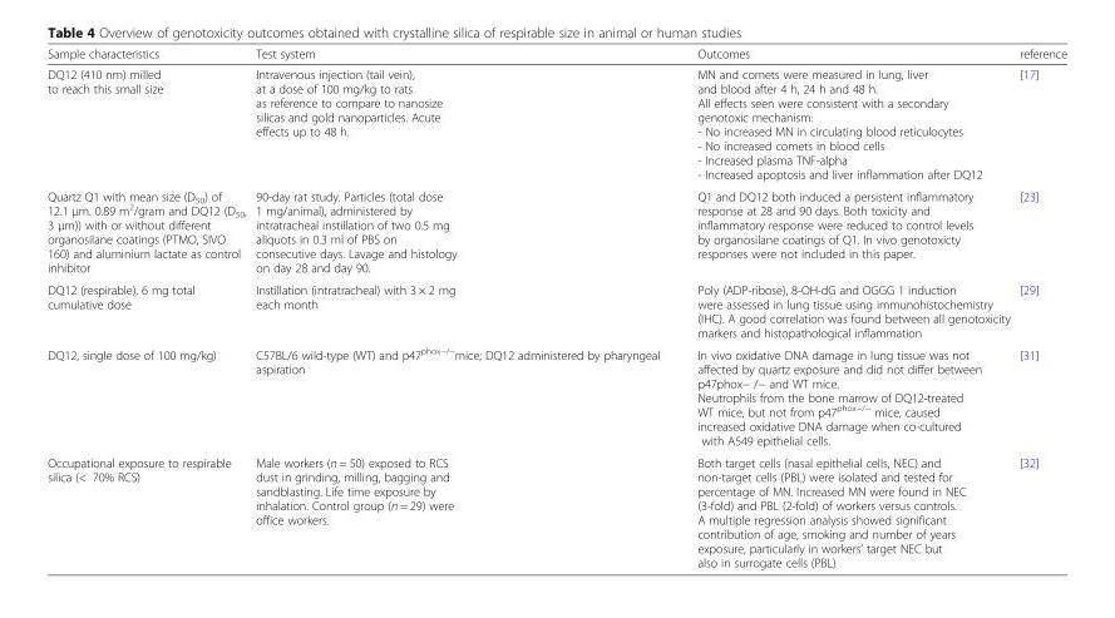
<table><thead><tr><td>Sample characteristics</td><td>Test system</td><td>Outcomes</td><td>reference</td></tr></thead><tbody><tr><td>DQ12 (410 nm) milled to reach this small size</td><td>Intravenous injection (tail vein), at a dose of 100 mg/kg to rats as reference to compare to nanosize silicas and gold nanoparticles. Acute effects up to 48 h.</td><td>MN and comets were measured in lung, liver and blood after 4 h, 24 h and 48 h. All effects seen were consistent with a secondary genotoxic mechanism: - No increased MN in circulating blood reticulocytes - No increased comets in blood cells - Increased plasma TNF-alpha - Increased apoptosis and liver inflammation after DQ12</td><td>[17]</td></tr><tr><td>Quartz Q1 with mean size (D<sub>50</sub>) of 12.1 μm. 0.89 m<sup>2</sup>/gram and DQ12 (D<sub>50</sub>, 3 μm)) with or without different organosilane coatings (PTMO, SIVO 160) and aluminium lactate as control inhibitor</td><td>90-day rat study. Particles (total dose 1 mg/animal), administered by intratracheal instillation of two 0.5 mg aliquots in 0.3 ml of PBS on consecutive days. Lavage and histology on day 28 and day 90.</td><td>Q1 and DQ12 both induced a persistent inflammatory response at 28 and 90 days. Both toxicity and inflammatory response were reduced to control levels by organosilane coatings of Q1. In vivo genotoxicty responses were not included in this paper.</td><td>[23]</td></tr><tr><td>DQ12 (respirable), 6 mg total cumulative dose</td><td>Instillation (intratracheal) with 3 × 2 mg each month</td><td>Poly (ADP-ribose), 8-OH-dG and OGGG 1 induction were assessed in lung tissue using immunohistochemistry (IHC). A good correlation was found between all genotoxicity markers and histopathological inflammation</td><td>[29]</td></tr><tr><td>DQ12, single dose of 100 mg/kg)</td><td>C57BL/6 wild-type (WT) and p47<sup>phox−/−</sup>mice; DQ12 administered by pharyngeal aspiration</td><td>In vivo oxidative DNA damage in lung tissue was not affected by quartz exposure and did not differ between p47phox− /− and WT mice. Neutrophils from the bone marrow of DQ12-treated WT mice, but not from p47<sup>phox−/−</sup> mice, caused increased oxidative DNA damage when co-cultured with A549 epithelial cells.</td><td>[31]</td></tr><tr><td>Occupational exposure to respirable silica (&lt; 70% RCS)</td><td>Male workers (n = 50) exposed to RCS dust in grinding, milling, bagging and sandblasting. Life time exposure by inhalation. Control group (n = 29) were office workers.</td><td>Both target cells (nasal epithelial cells, NEC) and non-target cells (PBL) were isolated and tested for percentage of MN. Increased MN were found in NEC (3-fold) and PBL (2-fold) of workers versus controls. A multiple regression analysis showed significant contribution of age, smoking and number of years exposure, particularly in workers’ target NEC but also in surrogate cells (PBL)</td><td>[32]</td></tr></tbody></table>